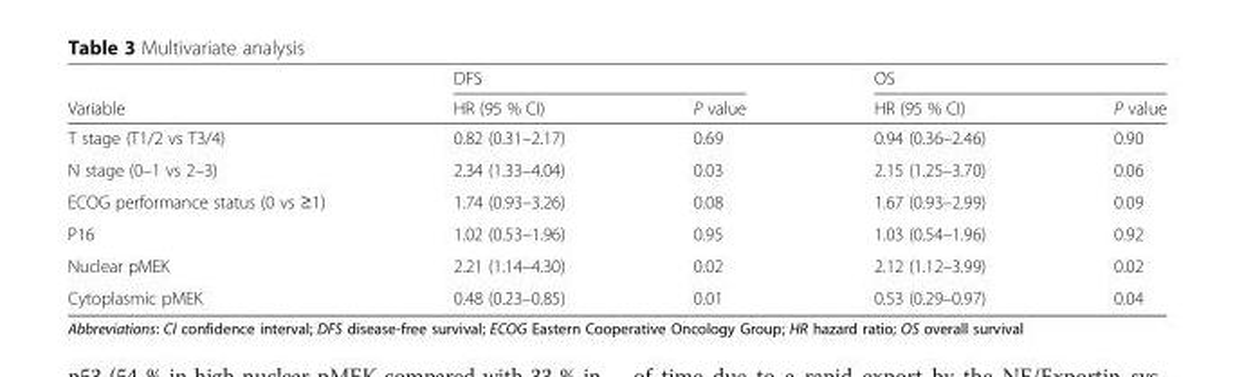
<table><thead><tr><td rowspan="2">Variable</td><td colspan="2">DFS</td><td colspan="2">OS</td></tr><tr><td>HR (95 % CI)</td><td>P value</td><td>HR (95 % CI)</td><td>P value</td></tr></thead><tbody><tr><td>T stage (T1/2 vs T3/4)</td><td>0.82 (0.31–2.17)</td><td>0.69</td><td>0.94 (0.36–2.46)</td><td>0.90</td></tr><tr><td>N stage (0–1 vs 2–3)</td><td>2.34 (1.33–4.04)</td><td>0.03</td><td>2.15 (1.25–3.70)</td><td>0.06</td></tr><tr><td>ECOG performance status (0 vs ≥1)</td><td>1.74 (0.93–3.26)</td><td>0.08</td><td>1.67 (0.93–2.99)</td><td>0.09</td></tr><tr><td>P16</td><td>1.02 (0.53–1.96)</td><td>0.95</td><td>1.03 (0.54–1.96)</td><td>0.92</td></tr><tr><td>Nuclear pMEK</td><td>2.21 (1.14–4.30)</td><td>0.02</td><td>2.12 (1.12–3.99)</td><td>0.02</td></tr><tr><td>Cytoplasmic pMEK</td><td>0.48 (0.23–0.85)</td><td>0.01</td><td>0.53 (0.29–0.97)</td><td>0.04</td></tr></tbody></table>